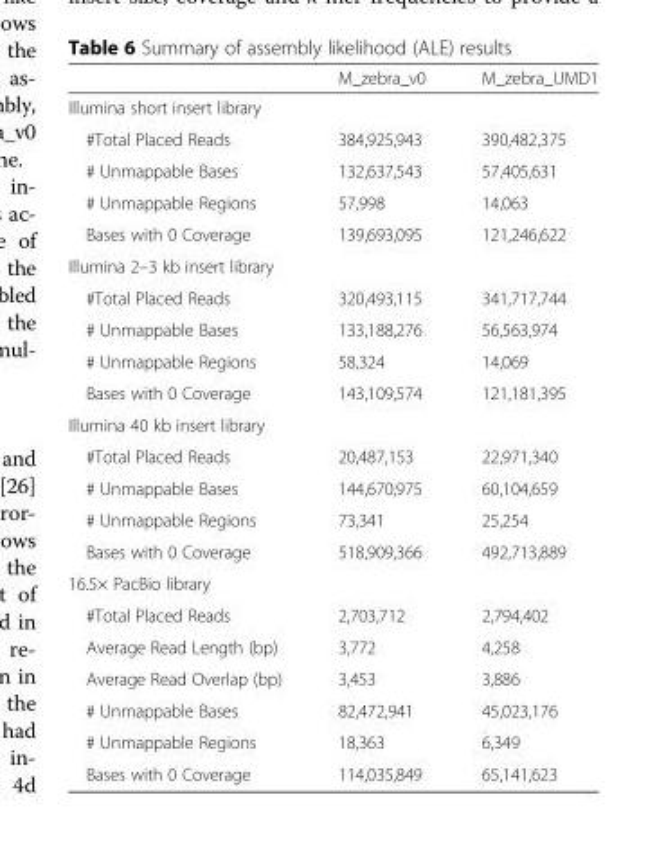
<table><thead><tr><td></td><td>M_zebra_v0</td><td>M_zebra_UMD1</td></tr></thead><tbody><tr><td colspan="3">Illumina short insert library</td></tr><tr><td>#Total Placed Reads</td><td>384,925,943</td><td>390,482,375</td></tr><tr><td># Unmappable Bases</td><td>132,637,543</td><td>57,405,631</td></tr><tr><td># Unmappable Regions</td><td>57,998</td><td>14,063</td></tr><tr><td>Bases with 0 Coverage</td><td>139,693,095</td><td>121,246,622</td></tr><tr><td colspan="3">Illumina 2–3 kb insert library</td></tr><tr><td>#Total Placed Reads</td><td>320,493,115</td><td>341,717,744</td></tr><tr><td># Unmappable Bases</td><td>133,188,276</td><td>56,563,974</td></tr><tr><td># Unmappable Regions</td><td>58,324</td><td>14,069</td></tr><tr><td>Bases with 0 Coverage</td><td>143,109,574</td><td>121,181,395</td></tr><tr><td colspan="3">Illumina 40 kb insert library</td></tr><tr><td>#Total Placed Reads</td><td>20,487,153</td><td>22,971,340</td></tr><tr><td># Unmappable Bases</td><td>144,670,975</td><td>60,104,659</td></tr><tr><td># Unmappable Regions</td><td>73,341</td><td>25,254</td></tr><tr><td>Bases with 0 Coverage</td><td>518,909,366</td><td>492,713,889</td></tr><tr><td colspan="3">16.5× PacBio library</td></tr><tr><td>#Total Placed Reads</td><td>2,703,712</td><td>2,794,402</td></tr><tr><td>Average Read Length (bp)</td><td>3,772</td><td>4,258</td></tr><tr><td>Average Read Overlap (bp)</td><td>3,453</td><td>3,886</td></tr><tr><td># Unmappable Bases</td><td>82,472,941</td><td>45,023,176</td></tr><tr><td># Unmappable Regions</td><td>18,363</td><td>6,349</td></tr><tr><td>Bases with 0 Coverage</td><td>114,035,849</td><td>65,141,623</td></tr></tbody></table>